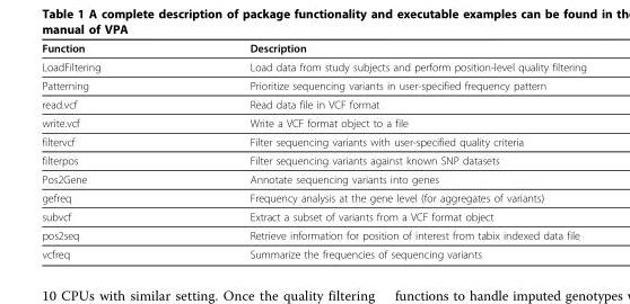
<table><thead><tr><td>Function</td><td>Description</td></tr></thead><tbody><tr><td>LoadFiltering</td><td>Load data from study subjects and perform position-level quality filtering</td></tr><tr><td>Patterning</td><td>Prioritize sequencing variants in user-specified frequency pattern</td></tr><tr><td>read.vcf</td><td>Read data file in VCF format</td></tr><tr><td>write.vcf</td><td>Write a VCF format object to a file</td></tr><tr><td>filtervcf</td><td>Filter sequencing variants with user-specified quality criteria</td></tr><tr><td>filterpos</td><td>Filter sequencing variants against known SNP datasets</td></tr><tr><td>Pos2Gene</td><td>Annotate sequencing variants into genes</td></tr><tr><td>gefreq</td><td>Frequency analysis at the gene level (for aggregates of variants)</td></tr><tr><td>subvcf</td><td>Extract a subset of variants from a VCF format object</td></tr><tr><td>pos2seq</td><td>Retrieve information for position of interest from tabix indexed data file</td></tr><tr><td>vcfreq</td><td>Summarize the frequencies of sequencing variants</td></tr></tbody></table>